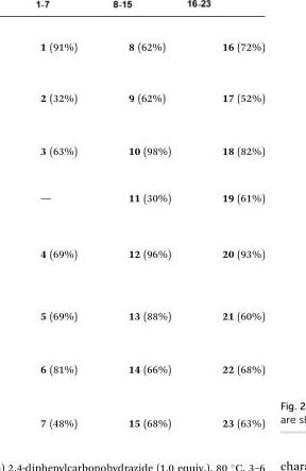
<table><tbody><tr><td>1 (91%)</td><td>8 (62%)</td><td>16 (72%)</td></tr><tr><td>2 (32%)</td><td>9 (62%)</td><td>17 (52%)</td></tr><tr><td>3 (63%)</td><td>10 (98%)</td><td>18 (82%)</td></tr><tr><td>—</td><td>11 (30%)</td><td>19 (61%)</td></tr><tr><td>4 (69%)</td><td>12 (96%)</td><td>20 (93%)</td></tr><tr><td>5 (69%)</td><td>13 (88%)</td><td>21 (60%)</td></tr><tr><td>6 (81%)</td><td>14 (66%)</td><td>22 (68%)</td></tr><tr><td>7 (48%)</td><td>15 (68%)</td><td>23 (63%)</td></tr></tbody></table>